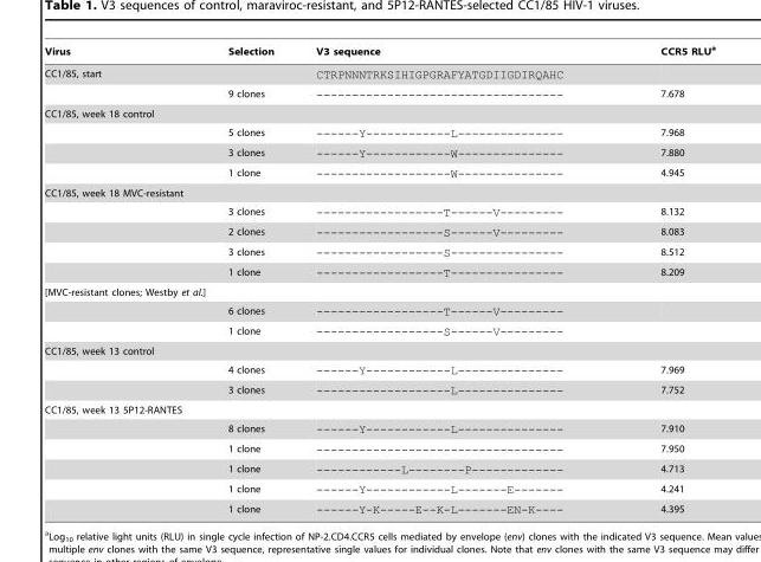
<table><thead><tr><td>Virus</td><td>Selection</td><td>V3 sequence</td><td>CCR5 RLU<sup>a</sup></td></tr></thead><tbody><tr><td rowspan="2">CC1/85, start</td><td></td><td>CTRPNNNTRKSIHIGPGRAFYATGDIIGDIRQAHC</td><td></td></tr><tr><td>9 clones</td><td>-----------------------------------</td><td>7.678</td></tr><tr><td colspan="4">CC1/85, week 18 control</td></tr><tr><td></td><td>5 clones</td><td>------Y------------L---------------</td><td>7.968</td></tr><tr><td></td><td>3 clones</td><td>------Y------------W---------------</td><td>7.880</td></tr><tr><td></td><td>1 clone</td><td>-------------------W---------------</td><td>4.945</td></tr><tr><td colspan="4">CC1/85, week 18 MVC-resistant</td></tr><tr><td></td><td>3 clones</td><td>------------------T------V---------</td><td>8.132</td></tr><tr><td></td><td>2 clones</td><td>------------------S------V---------</td><td>8.083</td></tr><tr><td></td><td>3 clones</td><td>------------------S----------------</td><td>8.512</td></tr><tr><td></td><td>1 clone</td><td>------------------T----------------</td><td>8.209</td></tr><tr><td colspan="4">[MVC-resistant clones; Westby et al.]</td></tr><tr><td></td><td>6 clones</td><td>------------------T------V---------</td><td></td></tr><tr><td></td><td>1 clone</td><td>------------------S------V---------</td><td></td></tr><tr><td colspan="4">CC1/85, week 13 control</td></tr><tr><td></td><td>4 clones</td><td>------Y------------L---------------</td><td>7.969</td></tr><tr><td></td><td>3 clones</td><td>-------------------L---------------</td><td>7.752</td></tr><tr><td colspan="4">CC1/85, week 13 5P12-RANTES</td></tr><tr><td></td><td>8 clones</td><td>------Y------------L---------------</td><td>7.910</td></tr><tr><td></td><td>1 clone</td><td>-----------------------------------</td><td>7.950</td></tr><tr><td></td><td>1 clone</td><td>------------L--------P-------------</td><td>4.713</td></tr><tr><td></td><td>1 clone</td><td>------Y------------L-------E-------</td><td>4.241</td></tr><tr><td></td><td>1 clone</td><td>------Y-K-----E--K-L-------EN-K----</td><td>4.395</td></tr></tbody></table>